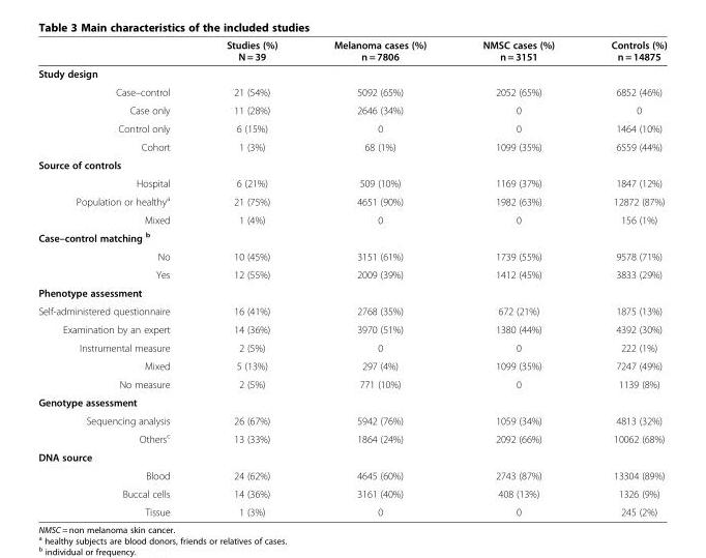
<table><thead><tr><td></td><td>Studies (%) N = 39</td><td>Melanoma cases (%) n = 7806</td><td>NMSC cases (%) n = 3151</td><td>Controls (%) n = 14875</td></tr></thead><tbody><tr><td colspan="5">Study design</td></tr><tr><td>Case–control</td><td>21 (54%)</td><td>5092 (65%)</td><td>2052 (65%)</td><td>6852 (46%)</td></tr><tr><td>Case only</td><td>11 (28%)</td><td>2646 (34%)</td><td>0</td><td>0</td></tr><tr><td>Control only</td><td>6 (15%)</td><td>0</td><td>0</td><td>1464 (10%)</td></tr><tr><td>Cohort</td><td>1 (3%)</td><td>68 (1%)</td><td>1099 (35%)</td><td>6559 (44%)</td></tr><tr><td colspan="5">Source of controls</td></tr><tr><td>Hospital</td><td>6 (21%)</td><td>509 (10%)</td><td>1169 (37%)</td><td>1847 (12%)</td></tr><tr><td>Population or healthy<sup>a</sup></td><td>21 (75%)</td><td>4651 (90%)</td><td>1982 (63%)</td><td>12872 (87%)</td></tr><tr><td>Mixed</td><td>1 (4%)</td><td>0</td><td>0</td><td>156 (1%)</td></tr><tr><td colspan="5">Case–control matching <sup>b</sup></td></tr><tr><td>No</td><td>10 (45%)</td><td>3151 (61%)</td><td>1739 (55%)</td><td>9578 (71%)</td></tr><tr><td>Yes</td><td>12 (55%)</td><td>2009 (39%)</td><td>1412 (45%)</td><td>3833 (29%)</td></tr><tr><td colspan="5">Phenotype assessment</td></tr><tr><td>Self-administered questionnaire</td><td>16 (41%)</td><td>2768 (35%)</td><td>672 (21%)</td><td>1875 (13%)</td></tr><tr><td>Examination by an expert</td><td>14 (36%)</td><td>3970 (51%)</td><td>1380 (44%)</td><td>4392 (30%)</td></tr><tr><td>Instrumental measure</td><td>2 (5%)</td><td>0</td><td>0</td><td>222 (1%)</td></tr><tr><td>Mixed</td><td>5 (13%)</td><td>297 (4%)</td><td>1099 (35%)</td><td>7247 (49%)</td></tr><tr><td>No measure</td><td>2 (5%)</td><td>771 (10%)</td><td>0</td><td>1139 (8%)</td></tr><tr><td colspan="5">Genotype assessment</td></tr><tr><td>Sequencing analysis</td><td>26 (67%)</td><td>5942 (76%)</td><td>1059 (34%)</td><td>4813 (32%)</td></tr><tr><td>Others<sup>c</sup></td><td>13 (33%)</td><td>1864 (24%)</td><td>2092 (66%)</td><td>10062 (68%)</td></tr><tr><td colspan="5">DNA source</td></tr><tr><td>Blood</td><td>24 (62%)</td><td>4645 (60%)</td><td>2743 (87%)</td><td>13304 (89%)</td></tr><tr><td>Buccal cells</td><td>14 (36%)</td><td>3161 (40%)</td><td>408 (13%)</td><td>1326 (9%)</td></tr><tr><td>Tissue</td><td>1 (3%)</td><td>0</td><td>0</td><td>245 (2%)</td></tr></tbody></table>